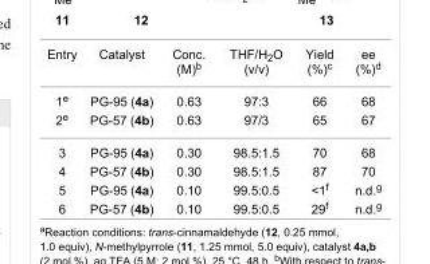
<table><tbody><tr><td>Entry</td><td>Catalyst</td><td>Conc. (M)<sup>b</sup></td><td>THF/H<sub>2</sub>O (v/v)</td><td>Yield (%)<sup>c</sup></td><td>ee (%)<sup>d</sup></td></tr><tr><td>1<sup>e</sup></td><td>PG-95 (4a)</td><td>0.63</td><td>97:3</td><td>66</td><td>68</td></tr><tr><td>2<sup>e</sup></td><td>PG-57 (4b)</td><td>0.63</td><td>97/3</td><td>65</td><td>67</td></tr><tr><td>3</td><td>PG-95 (4a)</td><td>0.30</td><td>98.5:1.5</td><td>70</td><td>68</td></tr><tr><td>4</td><td>PG-57 (4b)</td><td>0.30</td><td>98.5:1.5</td><td>87</td><td>70</td></tr><tr><td>5</td><td>PG-95 (4a)</td><td>0.10</td><td>99.5:0.5</td><td>&lt;1<sup>f</sup></td><td>n.d.<sup>g</sup></td></tr><tr><td>6</td><td>PG-57 (4b)</td><td>0.10</td><td>99.5:0.5</td><td>29<sup>f</sup></td><td>n.d.<sup>g</sup></td></tr></tbody></table>